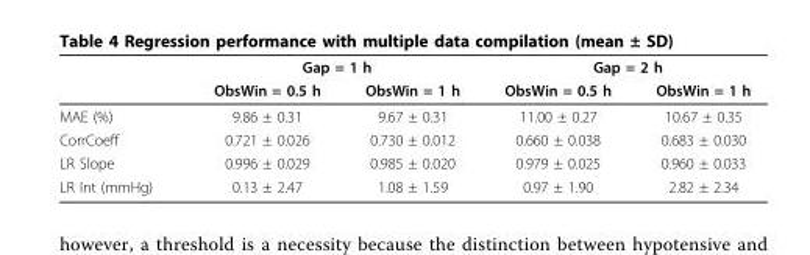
<table><thead><tr><td rowspan="2"></td><td colspan="2">Gap = 1 h</td><td colspan="2">Gap = 2 h</td></tr><tr><td>ObsWin = 0.5 h</td><td>ObsWin = 1 h</td><td>ObsWin = 0.5 h</td><td>ObsWin = 1 h</td></tr></thead><tbody><tr><td>MAE (%)</td><td>9.86 ± 0.31</td><td>9.67 ± 0.31</td><td>11.00 ± 0.27</td><td>10.67 ± 0.35</td></tr><tr><td>CorrCoeff</td><td>0.721 ± 0.026</td><td>0.730 ± 0.012</td><td>0.660 ± 0.038</td><td>0.683 ± 0.030</td></tr><tr><td>LR Slope</td><td>0.996 ± 0.029</td><td>0.985 ± 0.020</td><td>0.979 ± 0.025</td><td>0.960 ± 0.033</td></tr><tr><td>LR Int (mmHg)</td><td>0.13 ± 2.47</td><td>1.08 ± 1.59</td><td>0.97 ± 1.90</td><td>2.82 ± 2.34</td></tr></tbody></table>